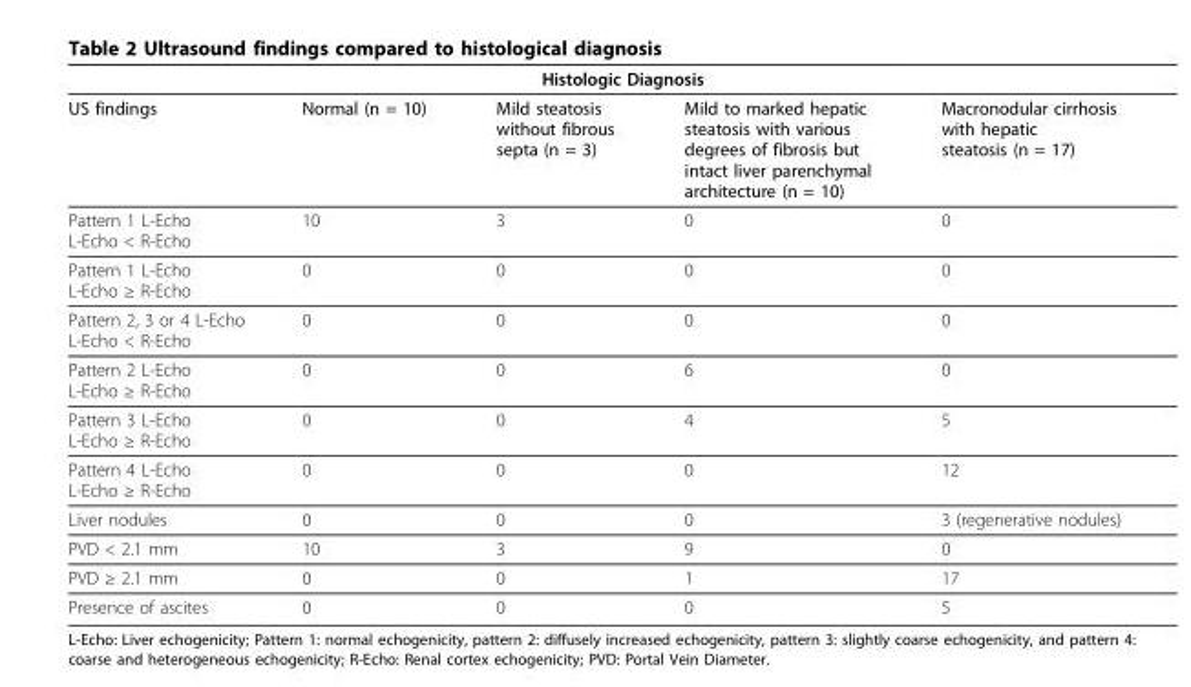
<table><thead><tr><td colspan="5">Histologic Diagnosis</td></tr><tr><td>US findings</td><td>Normal (n = 10)</td><td>Mild steatosis without fibrous septa (n = 3)</td><td>Mild to marked hepatic steatosis with various degrees of fibrosis but intact liver parenchymal architecture (n = 10)</td><td>Macronodular cirrhosis with hepatic steatosis (n = 17)</td></tr></thead><tbody><tr><td>Pattern 1 L-Echo L-Echo &lt; R-Echo</td><td>10</td><td>3</td><td>0</td><td>0</td></tr><tr><td>Pattern 1 L-Echo L-Echo ≥ R-Echo</td><td>0</td><td>0</td><td>0</td><td>0</td></tr><tr><td>Pattern 2, 3 or 4 L-Echo L-Echo &lt; R-Echo</td><td>0</td><td>0</td><td>0</td><td>0</td></tr><tr><td>Pattern 2 L-Echo L-Echo ≥ R-Echo</td><td>0</td><td>0</td><td>6</td><td>0</td></tr><tr><td>Pattern 3 L-Echo L-Echo ≥ R-Echo</td><td>0</td><td>0</td><td>4</td><td>5</td></tr><tr><td>Pattern 4 L-Echo L-Echo ≥ R-Echo</td><td>0</td><td>0</td><td>0</td><td>12</td></tr><tr><td>Liver nodules</td><td>0</td><td>0</td><td>0</td><td>3 (regenerative nodules)</td></tr><tr><td>PVD &lt; 2.1 mm</td><td>10</td><td>3</td><td>9</td><td>0</td></tr><tr><td>PVD ≥ 2.1 mm</td><td>0</td><td>0</td><td>1</td><td>17</td></tr><tr><td>Presence of ascites</td><td>0</td><td>0</td><td>0</td><td>5</td></tr></tbody></table>